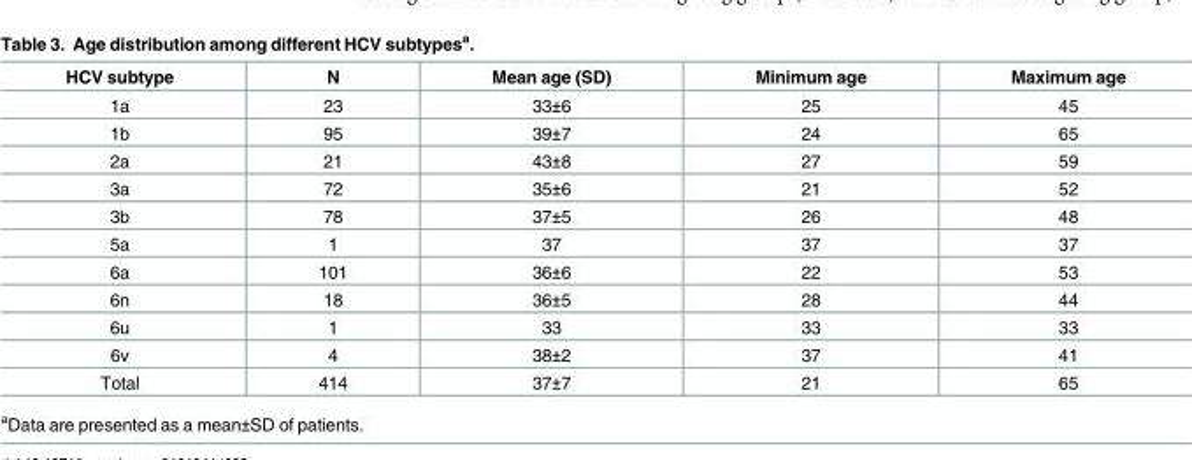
<table><thead><tr><td>HCV subtype</td><td>N</td><td>Mean age (SD)</td><td>Minimum age</td><td>Maximum age</td></tr></thead><tbody><tr><td>1a</td><td>23</td><td>33±6</td><td>25</td><td>45</td></tr><tr><td>1b</td><td>95</td><td>39±7</td><td>24</td><td>65</td></tr><tr><td>2a</td><td>21</td><td>43±8</td><td>27</td><td>59</td></tr><tr><td>3a</td><td>72</td><td>35±6</td><td>21</td><td>52</td></tr><tr><td>3b</td><td>78</td><td>37±5</td><td>26</td><td>48</td></tr><tr><td>5a</td><td>1</td><td>37</td><td>37</td><td>37</td></tr><tr><td>6a</td><td>101</td><td>36±6</td><td>22</td><td>53</td></tr><tr><td>6n</td><td>18</td><td>36±5</td><td>28</td><td>44</td></tr><tr><td>6u</td><td>1</td><td>33</td><td>33</td><td>33</td></tr><tr><td>6v</td><td>4</td><td>38±2</td><td>37</td><td>41</td></tr><tr><td>Total</td><td>414</td><td>37±7</td><td>21</td><td>65</td></tr></tbody></table>